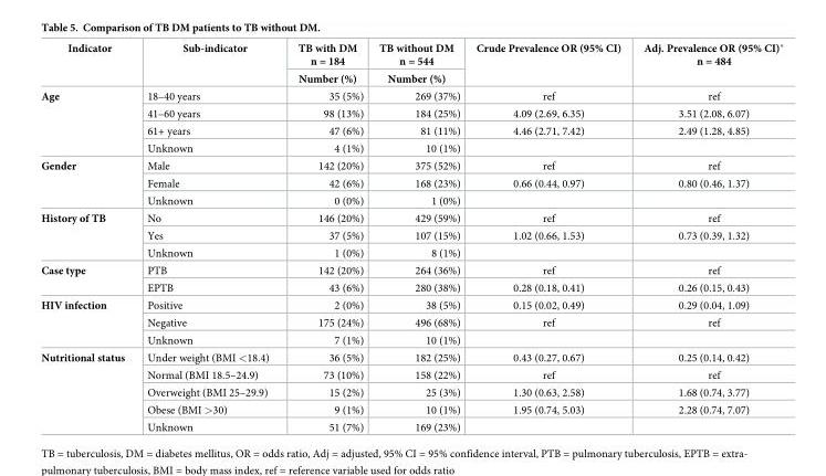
<table><thead><tr><td rowspan="2">Indicator</td><td rowspan="2">Sub-indicator</td><td rowspan="2">TB with DM n = 184 Number (%)</td><td rowspan="2">TB without DM n = 544 Number (%)</td><td rowspan="2">Crude Prevalence OR (95% CI)</td><td rowspan="2">Adj. Prevalence OR (95% CI)* n = 484</td></tr><tr></tr></thead><tbody><tr><td rowspan="4">Age</td><td>18–40 years</td><td>35 (5%)</td><td>269 (37%)</td><td>ref</td><td>ref</td></tr><tr><td>41–60 years</td><td>98 (13%)</td><td>184 (25%)</td><td>4.09 (2.69, 6.35)</td><td>3.51 (2.08, 6.07)</td></tr><tr><td>61+ years</td><td>47 (6%)</td><td>81 (11%)</td><td>4.46 (2.71, 7.42)</td><td>2.49 (1.28, 4.85)</td></tr><tr><td>Unknown</td><td>4 (1%)</td><td>10 (1%)</td><td></td><td></td></tr><tr><td rowspan="3">Gender</td><td>Male</td><td>142 (20%)</td><td>375 (52%)</td><td>ref</td><td>ref</td></tr><tr><td>Female</td><td>42 (6%)</td><td>168 (23%)</td><td>0.66 (0.44, 0.97)</td><td>0.80 (0.46, 1.37)</td></tr><tr><td>Unknown</td><td>0 (0%)</td><td>1 (0%)</td><td></td><td></td></tr><tr><td rowspan="3">History of TB</td><td>No</td><td>146 (20%)</td><td>429 (59%)</td><td>ref</td><td>ref</td></tr><tr><td>Yes</td><td>37 (5%)</td><td>107 (15%)</td><td>1.02 (0.66, 1.53)</td><td>0.73 (0.39, 1.32)</td></tr><tr><td>Unknown</td><td>1 (0%)</td><td>8 (1%)</td><td></td><td></td></tr><tr><td rowspan="2">Case type</td><td>PTB</td><td>142 (20%)</td><td>264 (36%)</td><td>ref</td><td>ref</td></tr><tr><td>EPTB</td><td>43 (6%)</td><td>280 (38%)</td><td>0.28 (0.18, 0.41)</td><td>0.26 (0.15, 0.43)</td></tr><tr><td rowspan="3">HIV infection</td><td>Positive</td><td>2 (0%)</td><td>38 (5%)</td><td>0.15 (0.02, 0.49)</td><td>0.29 (0.04, 1.09)</td></tr><tr><td>Negative</td><td>175 (24%)</td><td>496 (68%)</td><td>ref</td><td>ref</td></tr><tr><td>Unknown</td><td>7 (1%)</td><td>10 (1%)</td><td></td><td></td></tr><tr><td rowspan="5">Nutritional status</td><td>Under weight (BMI &lt;18.4)</td><td>36 (5%)</td><td>182 (25%)</td><td>0.43 (0.27, 0.67)</td><td>0.25 (0.14, 0.42)</td></tr><tr><td>Normal (BMI 18.5–24.9)</td><td>73 (10%)</td><td>158 (22%)</td><td>ref</td><td>ref</td></tr><tr><td>Overweight (BMI 25–29.9)</td><td>15 (2%)</td><td>25 (3%)</td><td>1.30 (0.63, 2.58)</td><td>1.68 (0.74, 3.77)</td></tr><tr><td>Obese (BMI &gt;30)</td><td>9 (1%)</td><td>10 (1%)</td><td>1.95 (0.74, 5.03)</td><td>2.28 (0.74, 7.07)</td></tr><tr><td>Unknown</td><td>51 (7%)</td><td>169 (23%)</td><td></td><td></td></tr></tbody></table>